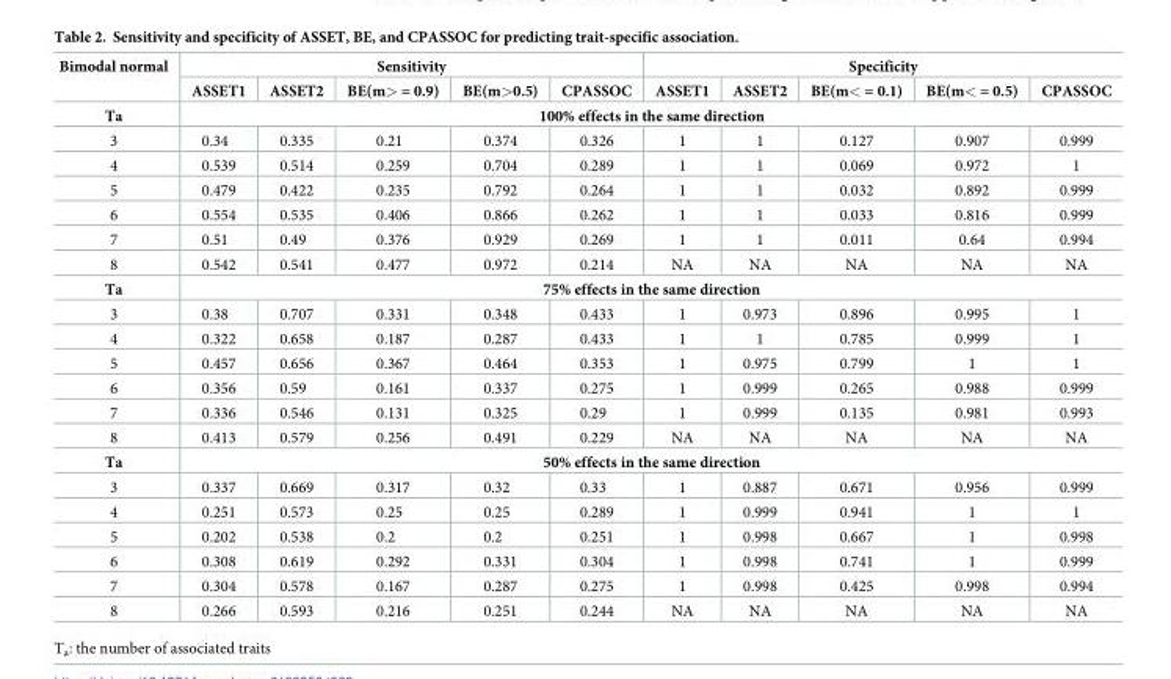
<table><thead><tr><td rowspan="2">Bimodal normal</td><td colspan="5">Sensitivity</td><td colspan="5">Specificity</td></tr><tr><td>ASSET1</td><td>ASSET2</td><td>BE(m&gt; = 0.9)</td><td>BE(m&gt;0.5)</td><td>CPASSOC</td><td>ASSET1</td><td>ASSET2</td><td>BE(m&lt; = 0.1)</td><td>BE(m&lt; = 0.5)</td><td>CPASSOC</td></tr></thead><tbody><tr><td>Ta</td><td colspan="10">100% effects in the same direction</td></tr><tr><td>3</td><td>0.34</td><td>0.335</td><td>0.21</td><td>0.374</td><td>0.326</td><td>1</td><td>1</td><td>0.127</td><td>0.907</td><td>0.999</td></tr><tr><td>4</td><td>0.539</td><td>0.514</td><td>0.259</td><td>0.704</td><td>0.289</td><td>1</td><td>1</td><td>0.069</td><td>0.972</td><td>1</td></tr><tr><td>5</td><td>0.479</td><td>0.422</td><td>0.235</td><td>0.792</td><td>0.264</td><td>1</td><td>1</td><td>0.032</td><td>0.892</td><td>0.999</td></tr><tr><td>6</td><td>0.554</td><td>0.535</td><td>0.406</td><td>0.866</td><td>0.262</td><td>1</td><td>1</td><td>0.033</td><td>0.816</td><td>0.999</td></tr><tr><td>7</td><td>0.51</td><td>0.49</td><td>0.376</td><td>0.929</td><td>0.269</td><td>1</td><td>1</td><td>0.011</td><td>0.64</td><td>0.994</td></tr><tr><td>8</td><td>0.542</td><td>0.541</td><td>0.477</td><td>0.972</td><td>0.214</td><td>NA</td><td>NA</td><td>NA</td><td>NA</td><td>NA</td></tr><tr><td>Ta</td><td colspan="10">75% effects in the same direction</td></tr><tr><td>3</td><td>0.38</td><td>0.707</td><td>0.331</td><td>0.348</td><td>0.433</td><td>1</td><td>0.973</td><td>0.896</td><td>0.995</td><td>1</td></tr><tr><td>4</td><td>0.322</td><td>0.658</td><td>0.187</td><td>0.287</td><td>0.433</td><td>1</td><td>1</td><td>0.785</td><td>0.999</td><td>1</td></tr><tr><td>5</td><td>0.457</td><td>0.656</td><td>0.367</td><td>0.464</td><td>0.353</td><td>1</td><td>0.975</td><td>0.799</td><td>1</td><td>1</td></tr><tr><td>6</td><td>0.356</td><td>0.59</td><td>0.161</td><td>0.337</td><td>0.275</td><td>1</td><td>0.999</td><td>0.265</td><td>0.988</td><td>0.999</td></tr><tr><td>7</td><td>0.336</td><td>0.546</td><td>0.131</td><td>0.325</td><td>0.29</td><td>1</td><td>0.999</td><td>0.135</td><td>0.981</td><td>0.993</td></tr><tr><td>8</td><td>0.413</td><td>0.579</td><td>0.256</td><td>0.491</td><td>0.229</td><td>NA</td><td>NA</td><td>NA</td><td>NA</td><td>NA</td></tr><tr><td>Ta</td><td colspan="10">50% effects in the same direction</td></tr><tr><td>3</td><td>0.337</td><td>0.669</td><td>0.317</td><td>0.32</td><td>0.33</td><td>1</td><td>0.887</td><td>0.671</td><td>0.956</td><td>0.999</td></tr><tr><td>4</td><td>0.251</td><td>0.573</td><td>0.25</td><td>0.25</td><td>0.289</td><td>1</td><td>0.999</td><td>0.941</td><td>1</td><td>1</td></tr><tr><td>5</td><td>0.202</td><td>0.538</td><td>0.2</td><td>0.2</td><td>0.251</td><td>1</td><td>0.998</td><td>0.667</td><td>1</td><td>0.998</td></tr><tr><td>6</td><td>0.308</td><td>0.619</td><td>0.292</td><td>0.331</td><td>0.304</td><td>1</td><td>0.998</td><td>0.741</td><td>1</td><td>0.999</td></tr><tr><td>7</td><td>0.304</td><td>0.578</td><td>0.167</td><td>0.287</td><td>0.275</td><td>1</td><td>0.998</td><td>0.425</td><td>0.998</td><td>0.994</td></tr><tr><td>8</td><td>0.266</td><td>0.593</td><td>0.216</td><td>0.251</td><td>0.244</td><td>NA</td><td>NA</td><td>NA</td><td>NA</td><td>NA</td></tr></tbody></table>